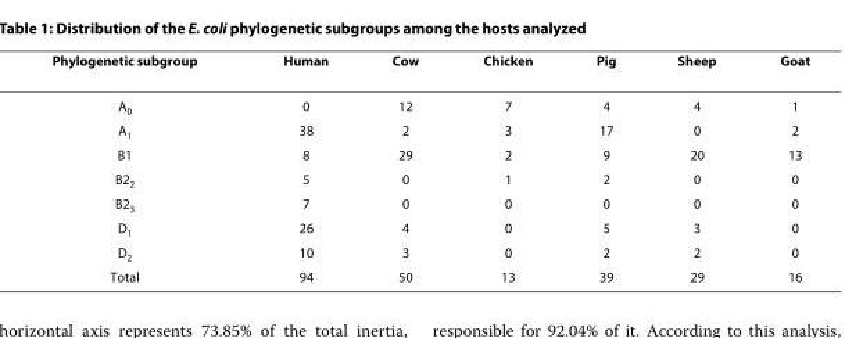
<table><thead><tr><td>Phylogenetic subgroup</td><td>Human</td><td>Cow</td><td>Chicken</td><td>Pig</td><td>Sheep</td><td>Goat</td></tr></thead><tbody><tr><td>A<sub>0</sub></td><td>0</td><td>12</td><td>7</td><td>4</td><td>4</td><td>1</td></tr><tr><td>A<sub>1</sub></td><td>38</td><td>2</td><td>3</td><td>17</td><td>0</td><td>2</td></tr><tr><td>B1</td><td>8</td><td>29</td><td>2</td><td>9</td><td>20</td><td>13</td></tr><tr><td>B2<sub>2</sub></td><td>5</td><td>0</td><td>1</td><td>2</td><td>0</td><td>0</td></tr><tr><td>B2<sub>3</sub></td><td>7</td><td>0</td><td>0</td><td>0</td><td>0</td><td>0</td></tr><tr><td>D<sub>1</sub></td><td>26</td><td>4</td><td>0</td><td>5</td><td>3</td><td>0</td></tr><tr><td>D<sub>2</sub></td><td>10</td><td>3</td><td>0</td><td>2</td><td>2</td><td>0</td></tr><tr><td>Total</td><td>94</td><td>50</td><td>13</td><td>39</td><td>29</td><td>16</td></tr></tbody></table>